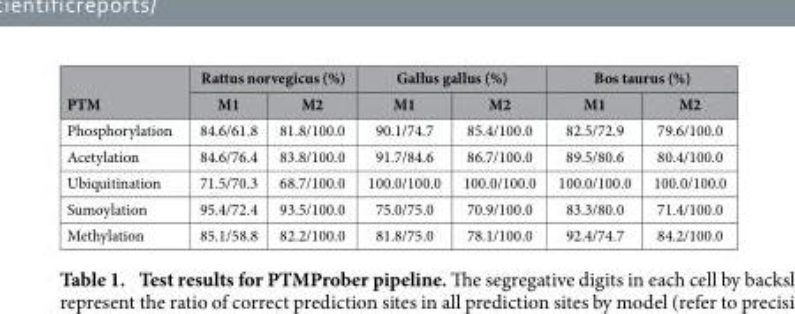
<table><thead><tr><td rowspan="2">PTM</td><td colspan="2">Rattus norvegicus (%)</td><td colspan="2">Gallus gallus (%)</td><td colspan="2">Bos taurus (%)</td></tr><tr><td>M1</td><td>M2</td><td>M1</td><td>M2</td><td>M1</td><td>M2</td></tr></thead><tbody><tr><td>Phosphorylation</td><td>84.6/61.8</td><td>81.8/100.0</td><td>90.1/74.7</td><td>85.4/100.0</td><td>82.5/72.9</td><td>79.6/100.0</td></tr><tr><td>Acetylation</td><td>84.6/76.4</td><td>83.8/100.0</td><td>91.7/84.6</td><td>86.7/100.0</td><td>89.5/80.6</td><td>80.4/100.0</td></tr><tr><td>Ubiquitination</td><td>71.5/70.3</td><td>68.7/100.0</td><td>100.0/100.0</td><td>100.0/100.0</td><td>100.0/100.0</td><td>100.0/100.0</td></tr><tr><td>Sumoylation</td><td>95.4/72.4</td><td>93.5/100.0</td><td>75.0/75.0</td><td>70.9/100.0</td><td>83.3/80.0</td><td>71.4/100.0</td></tr><tr><td>Methylation</td><td>85.1/58.8</td><td>82.2/100.0</td><td>81.8/75.0</td><td>78.1/100.0</td><td>92.4/74.7</td><td>84.2/100.0</td></tr></tbody></table>